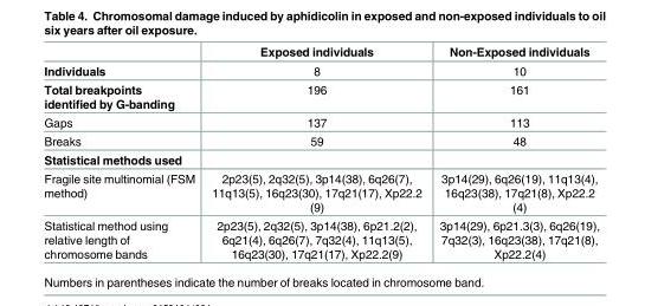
<table><thead><tr><td></td><td>Exposed individuals</td><td>Non-Exposed individuals</td></tr></thead><tbody><tr><td>Individuals</td><td>8</td><td>10</td></tr><tr><td>Total breakpoints identified by G-banding</td><td>196</td><td>161</td></tr><tr><td>Gaps</td><td>137</td><td>113</td></tr><tr><td>Breaks</td><td>59</td><td>48</td></tr><tr><td colspan="3">Statistical methods used</td></tr><tr><td>Fragile site multinomial (FSM method)</td><td>2p23(5), 2q32(5), 3p14(38), 6q26(7), 11q13(5), 16q23(30), 17q21(17), Xp22.2 (9)</td><td>3p14(29), 6q26(19), 11q13(4), 16q23(38), 17q21(8), Xp22.2 (4)</td></tr><tr><td>Statistical method using relative length of chromosome bands</td><td>2p23(5), 2q32(5), 3p14(38), 6p21.2(2), 6q21(4), 6q26(7), 7q32(4), 11q13(5), 16q23(30), 17q21(17), Xp22.2(9)</td><td>3p14(29), 6p21.3(3), 6q26(19), 7q32(3), 16q23(38), 17q21(8), Xp22.2(4)</td></tr></tbody></table>